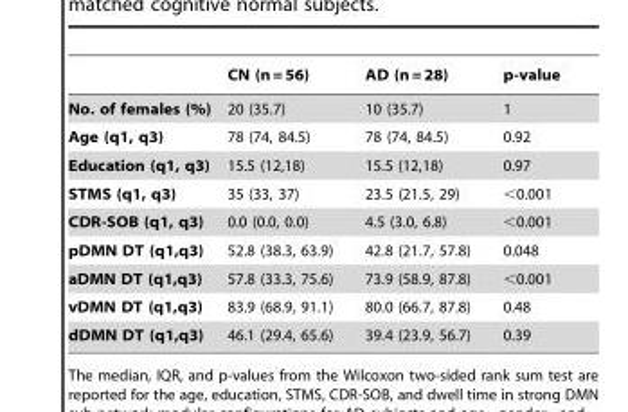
<table><thead><tr><td></td><td>CN (n = 56)</td><td>AD (n = 28)</td><td>p-value</td></tr></thead><tbody><tr><td>No. of females (%)</td><td>20 (35.7)</td><td>10 (35.7)</td><td>1</td></tr><tr><td>Age (q1, q3)</td><td>78 (74, 84.5)</td><td>78 (74, 84.5)</td><td>0.92</td></tr><tr><td>Education (q1, q3)</td><td>15.5 (12,18)</td><td>15.5 (12,18)</td><td>0.97</td></tr><tr><td>STMS (q1, q3)</td><td>35 (33, 37)</td><td>23.5 (21.5, 29)</td><td>&lt;0.001</td></tr><tr><td>CDR-SOB (q1, q3)</td><td>0.0 (0.0, 0.0)</td><td>4.5 (3.0, 6.8)</td><td>&lt;0.001</td></tr><tr><td>pDMN DT (q1,q3)</td><td>52.8 (38.3, 63.9)</td><td>42.8 (21.7, 57.8)</td><td>0.048</td></tr><tr><td>aDMN DT (q1,q3)</td><td>57.8 (33.3, 75.6)</td><td>73.9 (58.9, 87.8)</td><td>&lt;0.001</td></tr><tr><td>vDMN DT (q1,q3)</td><td>83.9 (68.9, 91.1)</td><td>80.0 (66.7, 87.8)</td><td>0.48</td></tr><tr><td>dDMN DT (q1,q3)</td><td>46.1 (29.4, 65.6)</td><td>39.4 (23.9, 56.7)</td><td>0.39</td></tr></tbody></table>